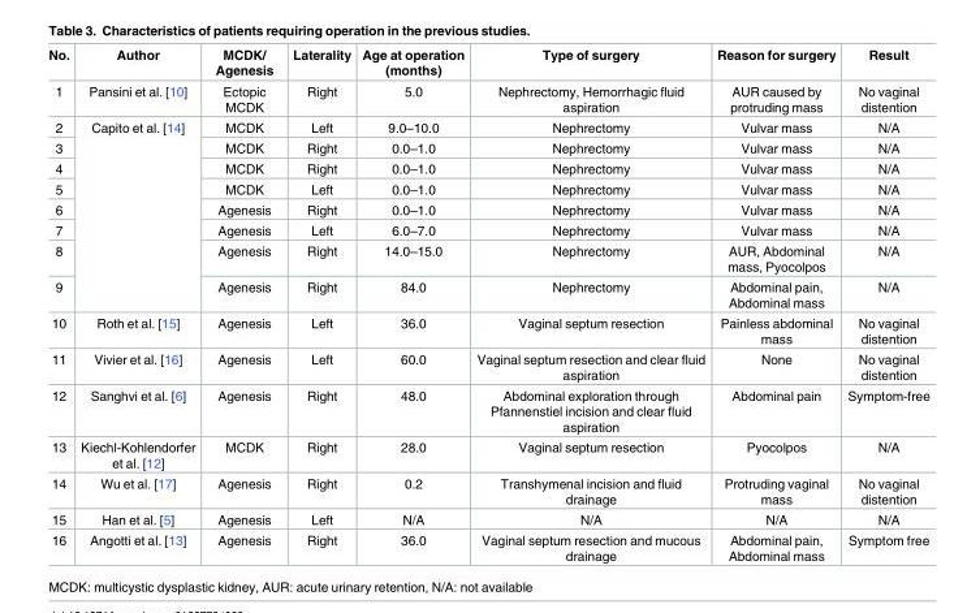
<table><thead><tr><td>No.</td><td>Author</td><td>MCDK/ Agenesis</td><td>Laterality</td><td>Age at operation (months)</td><td>Type of surgery</td><td>Reason for surgery</td><td>Result</td></tr></thead><tbody><tr><td>1</td><td>Pansini et al. [10]</td><td>Ectopic MCDK</td><td>Right</td><td>5.0</td><td>Nephrectomy, Hemorrhagic fluid aspiration</td><td>AUR caused by protruding mass</td><td>No vaginal distention</td></tr><tr><td>2</td><td rowspan="8">Capito et al. [14]</td><td>MCDK</td><td>Left</td><td>9.0–10.0</td><td>Nephrectomy</td><td>Vulvar mass</td><td>N/A</td></tr><tr><td>3</td><td>MCDK</td><td>Right</td><td>0.0–1.0</td><td>Nephrectomy</td><td>Vulvar mass</td><td>N/A</td></tr><tr><td>4</td><td>MCDK</td><td>Right</td><td>0.0–1.0</td><td>Nephrectomy</td><td>Vulvar mass</td><td>N/A</td></tr><tr><td>5</td><td>MCDK</td><td>Left</td><td>0.0–1.0</td><td>Nephrectomy</td><td>Vulvar mass</td><td>N/A</td></tr><tr><td>6</td><td>Agenesis</td><td>Right</td><td>0.0–1.0</td><td>Nephrectomy</td><td>Vulvar mass</td><td>N/A</td></tr><tr><td>7</td><td>Agenesis</td><td>Left</td><td>6.0–7.0</td><td>Nephrectomy</td><td>Vulvar mass</td><td>N/A</td></tr><tr><td>8</td><td>Agenesis</td><td>Right</td><td>14.0–15.0</td><td>Nephrectomy</td><td>AUR, Abdominal mass, Pyocolpos</td><td>N/A</td></tr><tr><td>9</td><td>Agenesis</td><td>Right</td><td>84.0</td><td>Nephrectomy</td><td>Abdominal pain, Abdominal mass</td><td>N/A</td></tr><tr><td>10</td><td>Roth et al. [15]</td><td>Agenesis</td><td>Left</td><td>36.0</td><td>Vaginal septum resection</td><td>Painless abdominal mass</td><td>No vaginal distention</td></tr><tr><td>11</td><td>Vivier et al. [16]</td><td>Agenesis</td><td>Left</td><td>60.0</td><td>Vaginal septum resection and clear fluid aspiration</td><td>None</td><td>No vaginal distention</td></tr><tr><td>12</td><td>Sanghvi et al. [6]</td><td>Agenesis</td><td>Right</td><td>48.0</td><td>Abdominal exploration through Pfannenstiel incision and clear fluid aspiration</td><td>Abdominal pain</td><td>Symptom-free</td></tr><tr><td>13</td><td>Kiechl-Kohlendorfer et al. [12]</td><td>MCDK</td><td>Right</td><td>28.0</td><td>Vaginal septum resection</td><td>Pyocolpos</td><td>N/A</td></tr><tr><td>14</td><td>Wu et al. [17]</td><td>Agenesis</td><td>Right</td><td>0.2</td><td>Transhymenal incision and fluid drainage</td><td>Protruding vaginal mass</td><td>No vaginal distention</td></tr><tr><td>15</td><td>Han et al. [5]</td><td>Agenesis</td><td>Left</td><td>N/A</td><td>N/A</td><td>N/A</td><td>N/A</td></tr><tr><td>16</td><td>Angotti et al. [13]</td><td>Agenesis</td><td>Right</td><td>36.0</td><td>Vaginal septum resection and mucous drainage</td><td>Abdominal pain, Abdominal mass</td><td>Symptom free</td></tr></tbody></table>